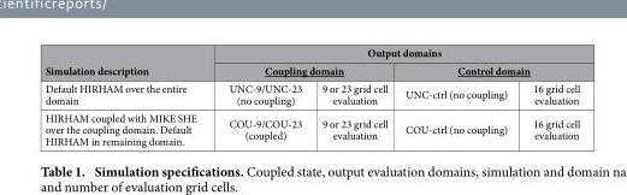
<table><thead><tr><td rowspan="3">Simulation description Default HIRHAM over the entire domain</td><td colspan="4">Output domains</td></tr><tr><td colspan="2">Coupling domain</td><td colspan="2">Control domain</td></tr><tr><td>UNC-9/UNC-23 (no coupling)</td><td>9 or 23 grid cell evaluation</td><td>UNC-ctrl (no coupling)</td><td>16 grid cell evaluation</td></tr></thead><tbody><tr><td>HIRHAM coupled with MIKE SHE over the coupling domain. Default HIRHAM in remaining domain.</td><td>COU-9/COU-23 (coupled)</td><td>9 or 23 grid cell evaluation</td><td>COU-ctrl (no coupling)</td><td>16 grid cell evaluation</td></tr></tbody></table>